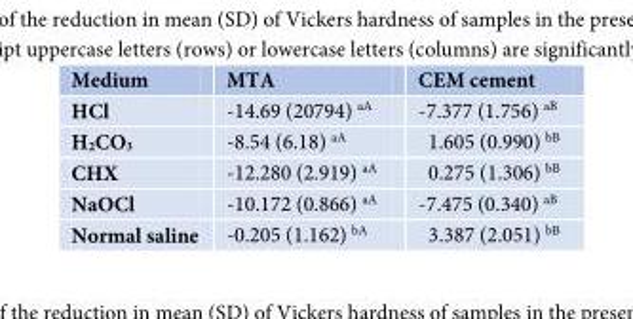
<table><thead><tr><td>Medium</td><td>MTA</td><td>CEM cement</td></tr></thead><tbody><tr><td>HCl</td><td>-14.69 (20794) <sup>aA</sup></td><td>-7.377 (1.756) <sup>aB</sup></td></tr><tr><td>H<sub>2</sub>CO<sub>3</sub></td><td>-8.54 (6.18) <sup>aA</sup></td><td>1.605 (0.990) <sup>bB</sup></td></tr><tr><td>CHX</td><td>-12.280 (2.919) <sup>aA</sup></td><td>0.275 (1.306) <sup>bB</sup></td></tr><tr><td>NaOCl</td><td>-10.172 (0.866) <sup>aA</sup></td><td>-7.475 (0.340) <sup>aB</sup></td></tr><tr><td>Normal saline</td><td>-0.205 (1.162) <sup>bA</sup></td><td>3.387 (2.051) <sup>bB</sup></td></tr></tbody></table>